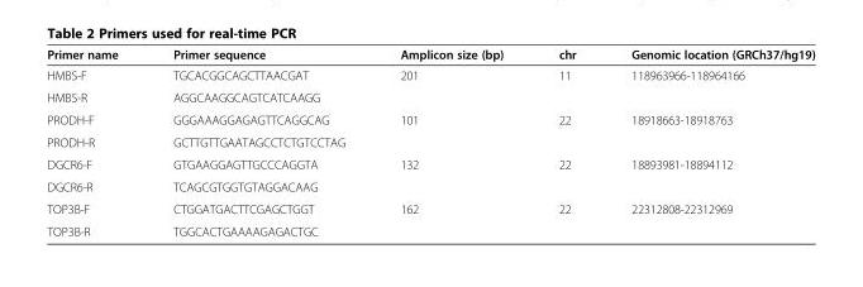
<table><thead><tr><td>Primer name</td><td>Primer sequence</td><td>Amplicon size (bp)</td><td>chr</td><td>Genomic location (GRCh37/hg19)</td></tr></thead><tbody><tr><td>HMBS-F</td><td>TGCACGGCAGCTTAACGAT</td><td rowspan="2">201</td><td rowspan="2">11</td><td rowspan="2">118963966-118964166</td></tr><tr><td>HMBS-R</td><td>AGGCAAGGCAGTCATCAAGG</td></tr><tr><td>PRODH-F</td><td>GGGAAAGGAGAGTTCAGGCAG</td><td rowspan="2">101</td><td rowspan="2">22</td><td rowspan="2">18918663-18918763</td></tr><tr><td>PRODH-R</td><td>GCTTGTTGAATAGCCTCTGTCCTAG</td></tr><tr><td>DGCR6-F</td><td>GTGAAGGAGTTGCCCAGGTA</td><td rowspan="2">132</td><td rowspan="2">22</td><td rowspan="2">18893981-18894112</td></tr><tr><td>DGCR6-R</td><td>TCAGCGTGGTGTAGGACAAG</td></tr><tr><td>TOP3B-F</td><td>CTGGATGACTTCGAGCTGGT</td><td rowspan="2">162</td><td rowspan="2">22</td><td rowspan="2">22312808-22312969</td></tr><tr><td>TOP3B-R</td><td>TGGCACTGAAAAGAGACTGC</td></tr></tbody></table>